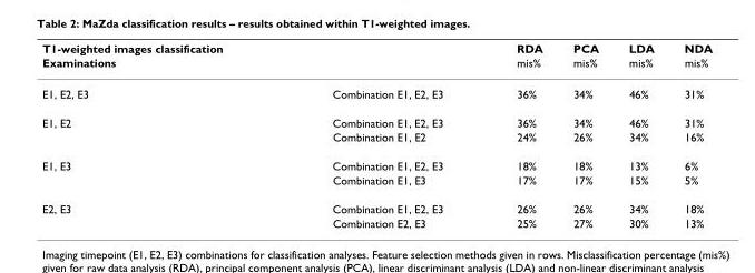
<table><thead><tr><td rowspan="2">T1-weighted images classification Examinations</td><td rowspan="2"></td><td rowspan="2">RDA mis%</td><td rowspan="2">PCA mis%</td><td rowspan="2">LDA mis%</td><td rowspan="2">NDA mis%</td></tr><tr></tr></thead><tbody><tr><td>E1, E2, E3</td><td>Combination E1, E2, E3</td><td>36%</td><td>34%</td><td>46%</td><td>31%</td></tr><tr><td rowspan="2">E1, E2</td><td>Combination E1, E2, E3</td><td>36%</td><td>34%</td><td>46%</td><td>31%</td></tr><tr><td>Combination E1, E2</td><td>24%</td><td>26%</td><td>34%</td><td>16%</td></tr><tr><td rowspan="2">E1, E3</td><td>Combination E1, E2, E3</td><td>18%</td><td>18%</td><td>13%</td><td>6%</td></tr><tr><td>Combination E1, E3</td><td>17%</td><td>17%</td><td>15%</td><td>5%</td></tr><tr><td rowspan="2">E2, E3</td><td>Combination E1, E2, E3</td><td>26%</td><td>26%</td><td>34%</td><td>18%</td></tr><tr><td>Combination E2, E3</td><td>25%</td><td>27%</td><td>30%</td><td>13%</td></tr></tbody></table>